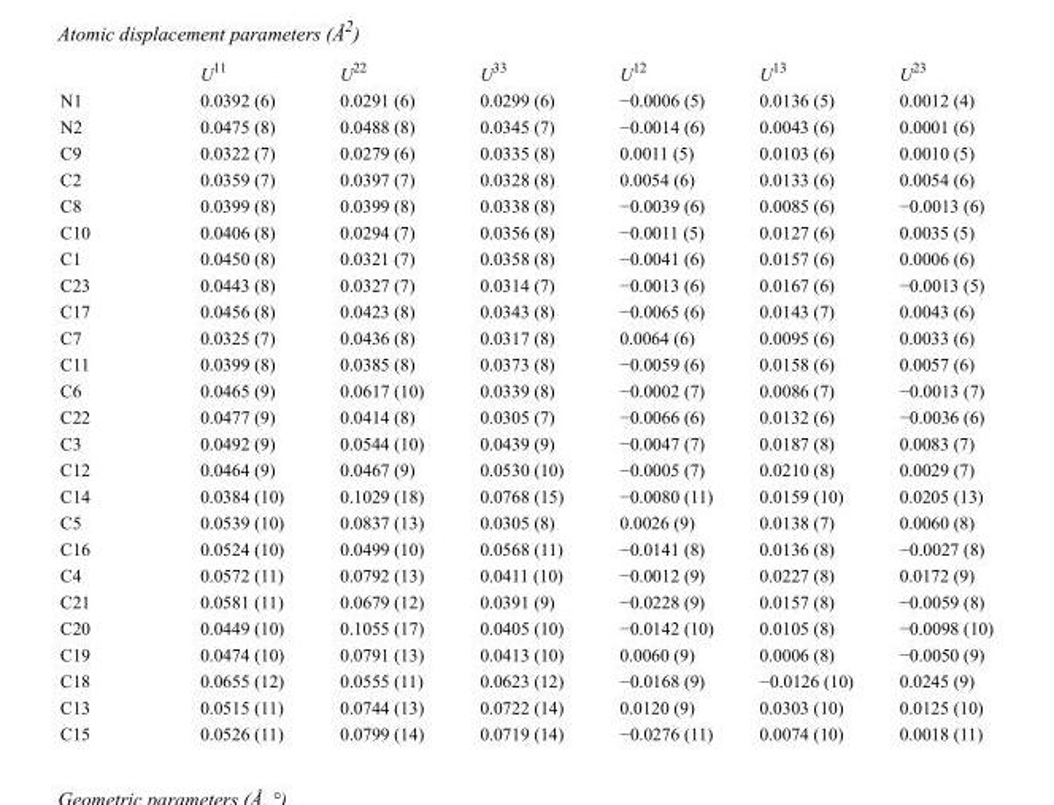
<table><thead><tr><td></td><td>U<sup>11</sup></td><td>U<sup>22</sup></td><td>U<sup>33</sup></td><td>U<sup>12</sup></td><td>U<sup>13</sup></td><td>U<sup>23</sup></td></tr></thead><tbody><tr><td>N1</td><td>0.0392 (6)</td><td>0.0291 (6)</td><td>0.0299 (6)</td><td>−0.0006 (5)</td><td>0.0136 (5)</td><td>0.0012 (4)</td></tr><tr><td>N2</td><td>0.0475 (8)</td><td>0.0488 (8)</td><td>0.0345 (7)</td><td>−0.0014 (6)</td><td>0.0043 (6)</td><td>0.0001 (6)</td></tr><tr><td>C9</td><td>0.0322 (7)</td><td>0.0279 (6)</td><td>0.0335 (8)</td><td>0.0011 (5)</td><td>0.0103 (6)</td><td>0.0010 (5)</td></tr><tr><td>C2</td><td>0.0359 (7)</td><td>0.0397 (7)</td><td>0.0328 (8)</td><td>0.0054 (6)</td><td>0.0133 (6)</td><td>0.0054 (6)</td></tr><tr><td>C8</td><td>0.0399 (8)</td><td>0.0399 (8)</td><td>0.0338 (8)</td><td>−0.0039 (6)</td><td>0.0085 (6)</td><td>−0.0013 (6)</td></tr><tr><td>C10</td><td>0.0406 (8)</td><td>0.0294 (7)</td><td>0.0356 (8)</td><td>−0.0011 (5)</td><td>0.0127 (6)</td><td>0.0035 (5)</td></tr><tr><td>C1</td><td>0.0450 (8)</td><td>0.0321 (7)</td><td>0.0358 (8)</td><td>−0.0041 (6)</td><td>0.0157 (6)</td><td>0.0006 (6)</td></tr><tr><td>C23</td><td>0.0443 (8)</td><td>0.0327 (7)</td><td>0.0314 (7)</td><td>−0.0013 (6)</td><td>0.0167 (6)</td><td>−0.0013 (5)</td></tr><tr><td>C17</td><td>0.0456 (8)</td><td>0.0423 (8)</td><td>0.0343 (8)</td><td>−0.0065 (6)</td><td>0.0143 (7)</td><td>0.0043 (6)</td></tr><tr><td>C7</td><td>0.0325 (7)</td><td>0.0436 (8)</td><td>0.0317 (8)</td><td>0.0064 (6)</td><td>0.0095 (6)</td><td>0.0033 (6)</td></tr><tr><td>C11</td><td>0.0399 (8)</td><td>0.0385 (8)</td><td>0.0373 (8)</td><td>−0.0059 (6)</td><td>0.0158 (6)</td><td>0.0057 (6)</td></tr><tr><td>C6</td><td>0.0465 (9)</td><td>0.0617 (10)</td><td>0.0339 (8)</td><td>−0.0002 (7)</td><td>0.0086 (7)</td><td>−0.0013 (7)</td></tr><tr><td>C22</td><td>0.0477 (9)</td><td>0.0414 (8)</td><td>0.0305 (7)</td><td>−0.0066 (6)</td><td>0.0132 (6)</td><td>−0.0036 (6)</td></tr><tr><td>C3</td><td>0.0492 (9)</td><td>0.0544 (10)</td><td>0.0439 (9)</td><td>−0.0047 (7)</td><td>0.0187 (8)</td><td>0.0083 (7)</td></tr><tr><td>C12</td><td>0.0464 (9)</td><td>0.0467 (9)</td><td>0.0530 (10)</td><td>−0.0005 (7)</td><td>0.0210 (8)</td><td>0.0029 (7)</td></tr><tr><td>C14</td><td>0.0384 (10)</td><td>0.1029 (18)</td><td>0.0768 (15)</td><td>−0.0080 (11)</td><td>0.0159 (10)</td><td>0.0205 (13)</td></tr><tr><td>C5</td><td>0.0539 (10)</td><td>0.0837 (13)</td><td>0.0305 (8)</td><td>0.0026 (9)</td><td>0.0138 (7)</td><td>0.0060 (8)</td></tr><tr><td>C16</td><td>0.0524 (10)</td><td>0.0499 (10)</td><td>0.0568 (11)</td><td>−0.0141 (8)</td><td>0.0136 (8)</td><td>−0.0027 (8)</td></tr><tr><td>C4</td><td>0.0572 (11)</td><td>0.0792 (13)</td><td>0.0411 (10)</td><td>−0.0012 (9)</td><td>0.0227 (8)</td><td>0.0172 (9)</td></tr><tr><td>C21</td><td>0.0581 (11)</td><td>0.0679 (12)</td><td>0.0391 (9)</td><td>−0.0228 (9)</td><td>0.0157 (8)</td><td>−0.0059 (8)</td></tr><tr><td>C20</td><td>0.0449 (10)</td><td>0.1055 (17)</td><td>0.0405 (10)</td><td>−0.0142 (10)</td><td>0.0105 (8)</td><td>−0.0098 (10)</td></tr><tr><td>C19</td><td>0.0474 (10)</td><td>0.0791 (13)</td><td>0.0413 (10)</td><td>0.0060 (9)</td><td>0.0006 (8)</td><td>−0.0050 (9)</td></tr><tr><td>C18</td><td>0.0655 (12)</td><td>0.0555 (11)</td><td>0.0623 (12)</td><td>−0.0168 (9)</td><td>−0.0126 (10)</td><td>0.0245 (9)</td></tr><tr><td>C13</td><td>0.0515 (11)</td><td>0.0744 (13)</td><td>0.0722 (14)</td><td>0.0120 (9)</td><td>0.0303 (10)</td><td>0.0125 (10)</td></tr><tr><td>C15</td><td>0.0526 (11)</td><td>0.0799 (14)</td><td>0.0719 (14)</td><td>−0.0276 (11)</td><td>0.0074 (10)</td><td>0.0018 (11)</td></tr></tbody></table>